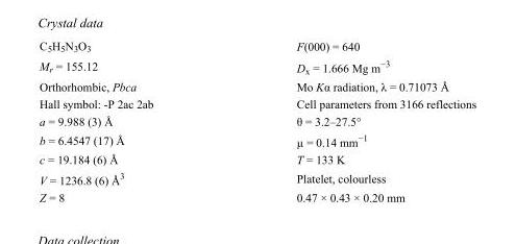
<table><tbody><tr><td>C<sub>5</sub>H<sub>5</sub>N<sub>3</sub>O<sub>3</sub></td><td>F(000) = 640</td></tr><tr><td>M<sub>r</sub> = 155.12</td><td>D<sub>x</sub> = 1.666 Mg m<sup>−3</sup></td></tr><tr><td>Orthorhombic, Pbca</td><td>Mo Kα radiation, λ = 0.71073 Å</td></tr><tr><td>Hall symbol: -P 2ac 2ab</td><td>Cell parameters from 3166 reflections</td></tr><tr><td>a = 9.988 (3) Å</td><td>θ = 3.2–27.5°</td></tr><tr><td>b = 6.4547 (17) Å</td><td>µ = 0.14 mm<sup>−1</sup></td></tr><tr><td>c = 19.184 (6) Å</td><td>T = 133 K</td></tr><tr><td>V = 1236.8 (6) Å<sup>3</sup></td><td>Platelet, colourless</td></tr><tr><td>Z = 8</td><td>0.47 × 0.43 × 0.20 mm</td></tr></tbody></table>